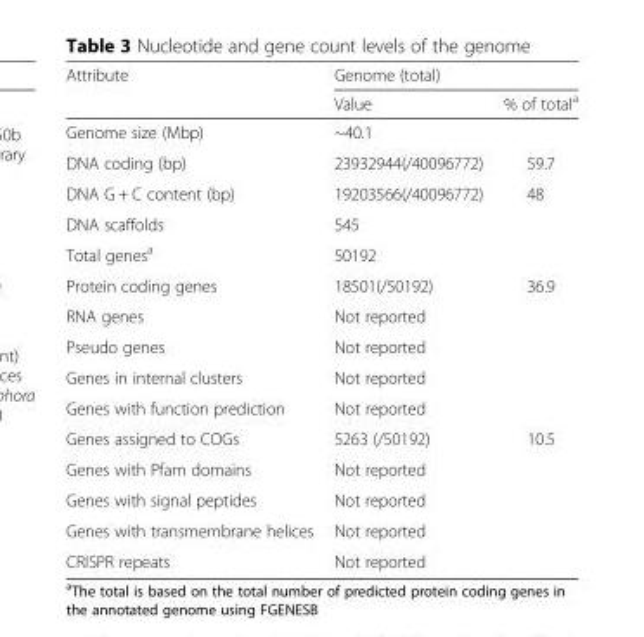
<table><thead><tr><td rowspan="2">Attribute</td><td colspan="2">Genome (total)</td></tr><tr><td>Value</td><td>% of total<sup>a</sup></td></tr></thead><tbody><tr><td>Genome size (Mbp)</td><td>~40.1</td><td></td></tr><tr><td>DNA coding (bp)</td><td>23932944(/40096772)</td><td>59.7</td></tr><tr><td>DNA G + C content (bp)</td><td>19203566(/40096772)</td><td>48</td></tr><tr><td>DNA scaffolds</td><td>545</td><td></td></tr><tr><td>Total genes<sup>a</sup></td><td>50192</td><td></td></tr><tr><td>Protein coding genes</td><td>18501(/50192)</td><td>36.9</td></tr><tr><td>RNA genes</td><td>Not reported</td><td></td></tr><tr><td>Pseudo genes</td><td>Not reported</td><td></td></tr><tr><td>Genes in internal clusters</td><td>Not reported</td><td></td></tr><tr><td>Genes with function prediction</td><td>Not reported</td><td></td></tr><tr><td>Genes assigned to COGs</td><td>5263 (/50192)</td><td>10.5</td></tr><tr><td>Genes with Pfam domains</td><td>Not reported</td><td></td></tr><tr><td>Genes with signal peptides</td><td>Not reported</td><td></td></tr><tr><td>Genes with transmembrane helices</td><td>Not reported</td><td></td></tr><tr><td>CRISPR repeats</td><td>Not reported</td><td></td></tr></tbody></table>